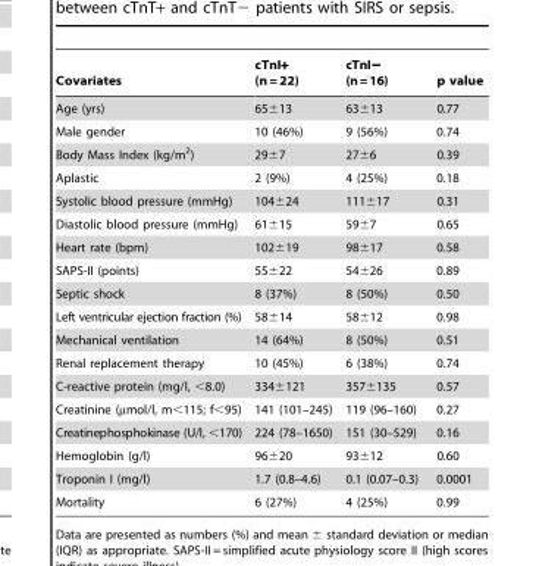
<table><thead><tr><td>Covariates</td><td>cTnI+ (n = 22)</td><td>cTnI− (n=16)</td><td>p value</td></tr></thead><tbody><tr><td>Age (yrs)</td><td>65±13</td><td>63±13</td><td>0.77</td></tr><tr><td>Male gender</td><td>10 (46%)</td><td>9 (56%)</td><td>0.74</td></tr><tr><td>Body Mass Index (kg/m<sup>2</sup>)</td><td>29±7</td><td>27±6</td><td>0.39</td></tr><tr><td>Aplastic</td><td>2 (9%)</td><td>4 (25%)</td><td>0.18</td></tr><tr><td>Systolic blood pressure (mmHg)</td><td>104±24</td><td>111±17</td><td>0.31</td></tr><tr><td>Diastolic blood pressure (mmHg)</td><td>61±15</td><td>59±7</td><td>0.65</td></tr><tr><td>Heart rate (bpm)</td><td>102±19</td><td>98±17</td><td>0.58</td></tr><tr><td>SAPS-II (points)</td><td>55±22</td><td>54±26</td><td>0.89</td></tr><tr><td>Septic shock</td><td>8 (37%)</td><td>8 (50%)</td><td>0.50</td></tr><tr><td>Left ventricular ejection fraction (%)</td><td>58±14</td><td>58±12</td><td>0.98</td></tr><tr><td>Mechanical ventilation</td><td>14 (64%)</td><td>8 (50%)</td><td>0.51</td></tr><tr><td>Renal replacement therapy</td><td>10 (45%)</td><td>6 (38%)</td><td>0.74</td></tr><tr><td>C-reactive protein (mg/l, &lt;8.0)</td><td>334±121</td><td>357±135</td><td>0.57</td></tr><tr><td>Creatinine (µmol/l, m&lt;115; f&lt;95)</td><td>141 (101–245)</td><td>119 (96–160)</td><td>0.27</td></tr><tr><td>Creatinephosphokinase (U/l, &lt;170)</td><td>224 (78–1650)</td><td>151 (30–529)</td><td>0.16</td></tr><tr><td>Hemoglobin (g/l)</td><td>96±20</td><td>93±12</td><td>0.60</td></tr><tr><td>Troponin I (mg/l)</td><td>1.7 (0.8–4.6)</td><td>0.1 (0.07–0.3)</td><td>0.0001</td></tr><tr><td>Mortality</td><td>6 (27%)</td><td>4 (25%)</td><td>0.99</td></tr></tbody></table>